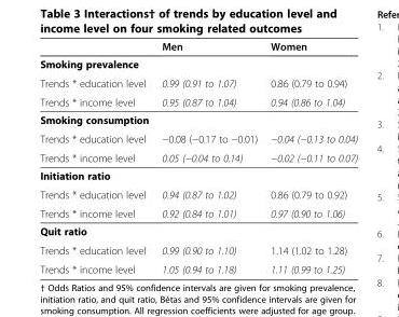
<table><thead><tr><td></td><td>Men</td><td>Women</td></tr></thead><tbody><tr><td colspan="3">Smoking prevalence</td></tr><tr><td>Trends * education level</td><td>0.99 (0.91 to 1.07)</td><td>0.86 (0.79 to 0.94)</td></tr><tr><td>Trends * income level</td><td>0.95 (0.87 to 1.04)</td><td>0.94 (0.86 to 1.04)</td></tr><tr><td colspan="3">Smoking consumption</td></tr><tr><td>Trends * education level</td><td>−0.08 (−0.17 to −0.01)</td><td>−0.04 (−0.13 to 0.04)</td></tr><tr><td>Trends * income level</td><td>0.05 (−0.04 to 0.14)</td><td>−0.02 (−0.11 to 0.07)</td></tr><tr><td colspan="3">Initiation ratio</td></tr><tr><td>Trends * education level</td><td>0.94 (0.87 to 1.02)</td><td>0.86 (0.79 to 0.92)</td></tr><tr><td>Trends * income level</td><td>0.92 (0.84 to 1.01)</td><td>0.97 (0.90 to 1.06)</td></tr><tr><td colspan="3">Quit ratio</td></tr><tr><td>Trends * education level</td><td>0.99 (0.90 to 1.10)</td><td>1.14 (1.02 to 1.28)</td></tr><tr><td>Trends * income level</td><td>1.05 (0.94 to 1.18)</td><td>1.11 (0.99 to 1.25)</td></tr></tbody></table>